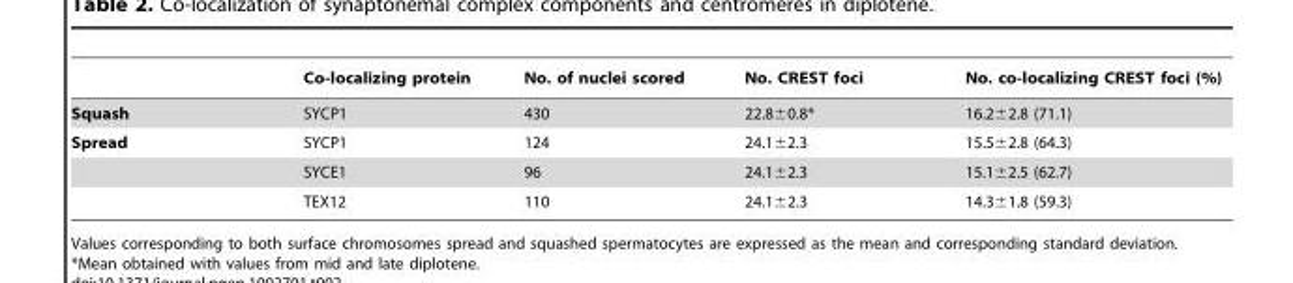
<table><thead><tr><td></td><td>Co-localizing protein</td><td>No. of nuclei scored</td><td>No. CREST foci</td><td>No. co-localizing CREST foci (%)</td></tr></thead><tbody><tr><td>Squash</td><td>SYCP1</td><td>430</td><td>22.8±0.8*</td><td>16.2±2.8 (71.1)</td></tr><tr><td rowspan="3">Spread</td><td>SYCP1</td><td>124</td><td>24.1±2.3</td><td>15.5±2.8 (64.3)</td></tr><tr><td>SYCE1</td><td>96</td><td>24.1±2.3</td><td>15.1±2.5 (62.7)</td></tr><tr><td>TEX12</td><td>110</td><td>24.1±2.3</td><td>14.3±1.8 (59.3)</td></tr></tbody></table>